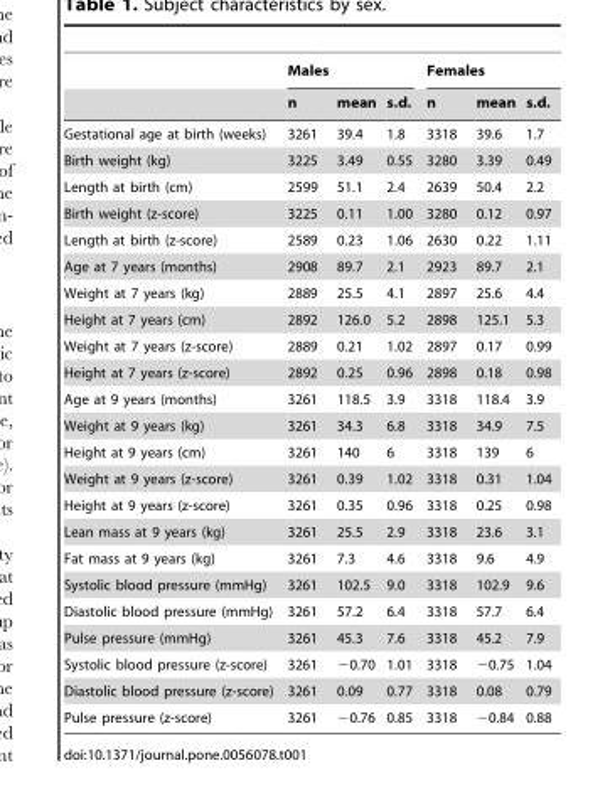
<table><thead><tr><td rowspan="2"></td><td colspan="3">Males</td><td colspan="3">Females</td></tr><tr><td>n</td><td>mean</td><td>s.d.</td><td>n</td><td>mean</td><td>s.d.</td></tr></thead><tbody><tr><td>Gestational age at birth (weeks)</td><td>3261</td><td>39.4</td><td>1.8</td><td>3318</td><td>39.6</td><td>1.7</td></tr><tr><td>Birth weight (kg)</td><td>3225</td><td>3.49</td><td>0.55</td><td>3280</td><td>3.39</td><td>0.49</td></tr><tr><td>Length at birth (cm)</td><td>2599</td><td>51.1</td><td>2.4</td><td>2639</td><td>50.4</td><td>2.2</td></tr><tr><td>Birth weight (z-score)</td><td>3225</td><td>0.11</td><td>1.00</td><td>3280</td><td>0.12</td><td>0.97</td></tr><tr><td>Length at birth (z-score)</td><td>2589</td><td>0.23</td><td>1.06</td><td>2630</td><td>0.22</td><td>1.11</td></tr><tr><td>Age at 7 years (months)</td><td>2908</td><td>89.7</td><td>2.1</td><td>2923</td><td>89.7</td><td>2.1</td></tr><tr><td>Weight at 7 years (kg)</td><td>2889</td><td>25.5</td><td>4.1</td><td>2897</td><td>25.6</td><td>4.4</td></tr><tr><td>Height at 7 years (cm)</td><td>2892</td><td>126.0</td><td>5.2</td><td>2898</td><td>125.1</td><td>5.3</td></tr><tr><td>Weight at 7 years (z-score)</td><td>2889</td><td>0.21</td><td>1.02</td><td>2897</td><td>0.17</td><td>0.99</td></tr><tr><td>Height at 7 years (z-score)</td><td>2892</td><td>0.25</td><td>0.96</td><td>2898</td><td>0.18</td><td>0.98</td></tr><tr><td>Age at 9 years (months)</td><td>3261</td><td>118.5</td><td>3.9</td><td>3318</td><td>118.4</td><td>3.9</td></tr><tr><td>Weight at 9 years (kg)</td><td>3261</td><td>34.3</td><td>6.8</td><td>3318</td><td>34.9</td><td>7.5</td></tr><tr><td>Height at 9 years (cm)</td><td>3261</td><td>140</td><td>6</td><td>3318</td><td>139</td><td>6</td></tr><tr><td>Weight at 9 years (z-score)</td><td>3261</td><td>0.39</td><td>1.02</td><td>3318</td><td>0.31</td><td>1.04</td></tr><tr><td>Height at 9 years (z-score)</td><td>3261</td><td>0.35</td><td>0.96</td><td>3318</td><td>0.25</td><td>0.98</td></tr><tr><td>Lean mass at 9 years (kg)</td><td>3261</td><td>25.5</td><td>2.9</td><td>3318</td><td>23.6</td><td>3.1</td></tr><tr><td>Fat mass at 9 years (kg)</td><td>3261</td><td>7.3</td><td>4.6</td><td>3318</td><td>9.6</td><td>4.9</td></tr><tr><td>Systolic blood pressure (mmHg)</td><td>3261</td><td>102.5</td><td>9.0</td><td>3318</td><td>102.9</td><td>9.6</td></tr><tr><td>Diastolic blood pressure (mmHg)</td><td>3261</td><td>57.2</td><td>6.4</td><td>3318</td><td>57.7</td><td>6.4</td></tr><tr><td>Pulse pressure (mmHg)</td><td>3261</td><td>45.3</td><td>7.6</td><td>3318</td><td>45.2</td><td>7.9</td></tr><tr><td>Systolic blood pressure (z-score)</td><td>3261</td><td>−0.70</td><td>1.01</td><td>3318</td><td>−0.75</td><td>1.04</td></tr><tr><td>Diastolic blood pressure (z-score)</td><td>3261</td><td>0.09</td><td>0.77</td><td>3318</td><td>0.08</td><td>0.79</td></tr><tr><td>Pulse pressure (z-score)</td><td>3261</td><td>−0.76</td><td>0.85</td><td>3318</td><td>−0.84</td><td>0.88</td></tr></tbody></table>